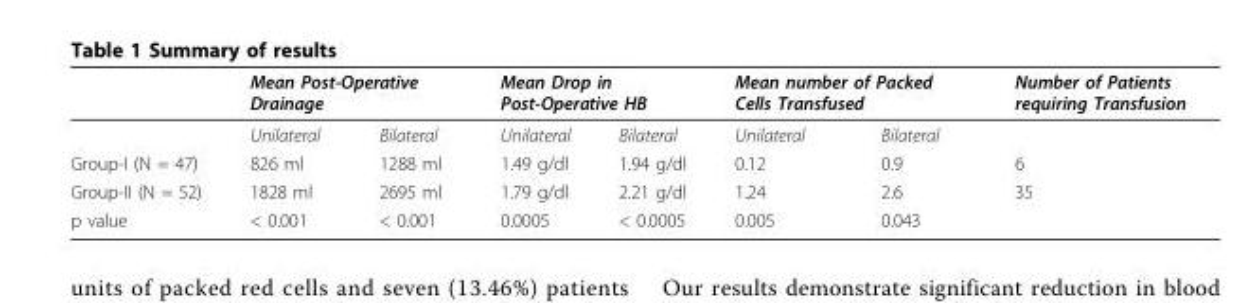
<table><thead><tr><td rowspan="2"></td><td colspan="2">Mean Post-Operative Drainage</td><td colspan="2">Mean Drop in Post-Operative HB</td><td colspan="2">Mean number of Packed Cells Transfused</td><td rowspan="2">Number of Patients requiring Transfusion</td></tr><tr><td>Unilateral</td><td>Bilateral</td><td>Unilateral</td><td>Bilateral</td><td>Unilateral</td><td>Bilateral</td></tr></thead><tbody><tr><td>Group-I (N = 47)</td><td>826 ml</td><td>1288 ml</td><td>1.49 g/dl</td><td>1.94 g/dl</td><td>0.12</td><td>0.9</td><td>6</td></tr><tr><td>Group-II (N = 52)</td><td>1828 ml</td><td>2695 ml</td><td>1.79 g/dl</td><td>2.21 g/dl</td><td>1.24</td><td>2.6</td><td>35</td></tr><tr><td>p value</td><td>&lt; 0.001</td><td>&lt; 0.001</td><td>0.0005</td><td>&lt; 0.0005</td><td>0.005</td><td>0.043</td><td></td></tr></tbody></table>